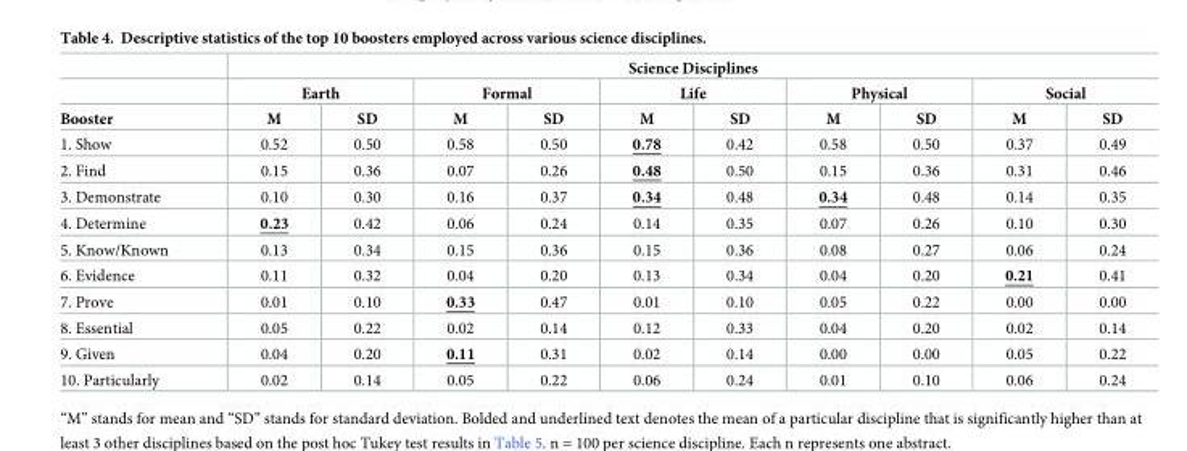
<table><thead><tr><td rowspan="3">Booster</td><td colspan="10">Science Disciplines</td></tr><tr><td colspan="2">Earth</td><td colspan="2">Formal</td><td colspan="2">Life</td><td colspan="2">Physical</td><td colspan="2">Social</td></tr><tr><td>M</td><td>SD</td><td>M</td><td>SD</td><td>M</td><td>SD</td><td>M</td><td>SD</td><td>M</td><td>SD</td></tr></thead><tbody><tr><td>1. Show</td><td>0.52</td><td>0.50</td><td>0.58</td><td>0.50</td><td>0.78</td><td>0.42</td><td>0.58</td><td>0.50</td><td>0.37</td><td>0.49</td></tr><tr><td>2. Find</td><td>0.15</td><td>0.36</td><td>0.07</td><td>0.26</td><td>0.48</td><td>0.50</td><td>0.15</td><td>0.36</td><td>0.31</td><td>0.46</td></tr><tr><td>3. Demonstrate</td><td>0.10</td><td>0.30</td><td>0.16</td><td>0.37</td><td>0.34</td><td>0.48</td><td>0.34</td><td>0.48</td><td>0.14</td><td>0.35</td></tr><tr><td>4. Determine</td><td>0.23</td><td>0.42</td><td>0.06</td><td>0.24</td><td>0.14</td><td>0.35</td><td>0.07</td><td>0.26</td><td>0.10</td><td>0.30</td></tr><tr><td>5. Know/Known</td><td>0.13</td><td>0.34</td><td>0.15</td><td>0.36</td><td>0.15</td><td>0.36</td><td>0.08</td><td>0.27</td><td>0.06</td><td>0.24</td></tr><tr><td>6. Evidence</td><td>0.11</td><td>0.32</td><td>0.04</td><td>0.20</td><td>0.13</td><td>0.34</td><td>0.04</td><td>0.20</td><td>0.21</td><td>0.41</td></tr><tr><td>7. Prove</td><td>0.01</td><td>0.10</td><td>0.33</td><td>0.47</td><td>0.01</td><td>0.10</td><td>0.05</td><td>0.22</td><td>0.00</td><td>0.00</td></tr><tr><td>8. Essential</td><td>0.05</td><td>0.22</td><td>0.02</td><td>0.14</td><td>0.12</td><td>0.33</td><td>0.04</td><td>0.20</td><td>0.02</td><td>0.14</td></tr><tr><td>9. Given</td><td>0.04</td><td>0.20</td><td>0.11</td><td>0.31</td><td>0.02</td><td>0.14</td><td>0.00</td><td>0.00</td><td>0.05</td><td>0.22</td></tr><tr><td>10. Particularly</td><td>0.02</td><td>0.14</td><td>0.05</td><td>0.22</td><td>0.06</td><td>0.24</td><td>0.01</td><td>0.10</td><td>0.06</td><td>0.24</td></tr></tbody></table>